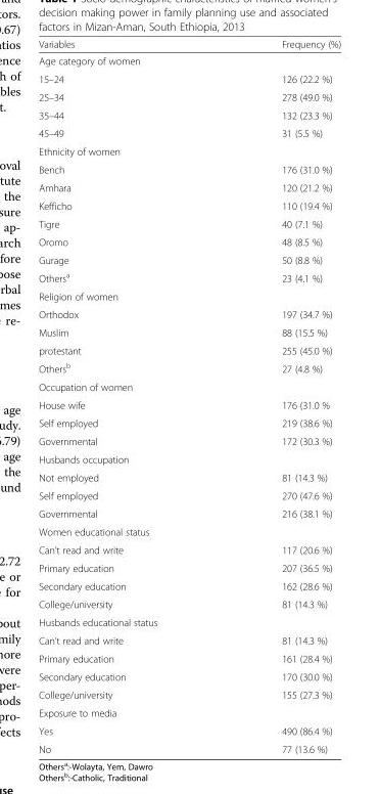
<table><thead><tr><td>Variables</td><td>Frequency (%)</td></tr></thead><tbody><tr><td colspan="2">Age category of women</td></tr><tr><td>15–24</td><td>126 (22.2 %)</td></tr><tr><td>25–34</td><td>278 (49.0 %)</td></tr><tr><td>35–44</td><td>132 (23.3 %)</td></tr><tr><td>45–49</td><td>31 (5.5 %)</td></tr><tr><td colspan="2">Ethnicity of women</td></tr><tr><td>Bench</td><td>176 (31.0 %)</td></tr><tr><td>Amhara</td><td>120 (21.2 %)</td></tr><tr><td>Kefficho</td><td>110 (19.4 %)</td></tr><tr><td>Tigre</td><td>40 (7.1 %)</td></tr><tr><td>Oromo</td><td>48 (8.5 %)</td></tr><tr><td>Gurage</td><td>50 (8.8 %)</td></tr><tr><td>Others<sup>a</sup></td><td>23 (4.1 %)</td></tr><tr><td colspan="2">Religion of women</td></tr><tr><td>Orthodox</td><td>197 (34.7 %)</td></tr><tr><td>Muslim</td><td>88 (15.5 %)</td></tr><tr><td>protestant</td><td>255 (45.0 %)</td></tr><tr><td>Others<sup>b</sup></td><td>27 (4.8 %)</td></tr><tr><td colspan="2">Occupation of women</td></tr><tr><td>House wife</td><td>176 (31.0 %</td></tr><tr><td>Self employed</td><td>219 (38.6 %)</td></tr><tr><td>Governmental</td><td>172 (30.3 %)</td></tr><tr><td colspan="2">Husbands occupation</td></tr><tr><td>Not employed</td><td>81 (14.3 %)</td></tr><tr><td>Self employed</td><td>270 (47.6 %)</td></tr><tr><td>Governmental</td><td>216 (38.1 %)</td></tr><tr><td colspan="2">Women educational status</td></tr><tr><td>Can’t read and write</td><td>117 (20.6 %)</td></tr><tr><td>Primary education</td><td>207 (36.5 %)</td></tr><tr><td>Secondary education</td><td>162 (28.6 %)</td></tr><tr><td>College/university</td><td>81 (14.3 %)</td></tr><tr><td colspan="2">Husbands educational status</td></tr><tr><td>Can’t read and write</td><td>81 (14.3 %)</td></tr><tr><td>Primary education</td><td>161 (28.4 %)</td></tr><tr><td>Secondary education</td><td>170 (30.0 %)</td></tr><tr><td>College/university</td><td>155 (27.3 %)</td></tr><tr><td colspan="2">Exposure to media</td></tr><tr><td>Yes</td><td>490 (86.4 %)</td></tr><tr><td>No</td><td>77 (13.6 %)</td></tr></tbody></table>